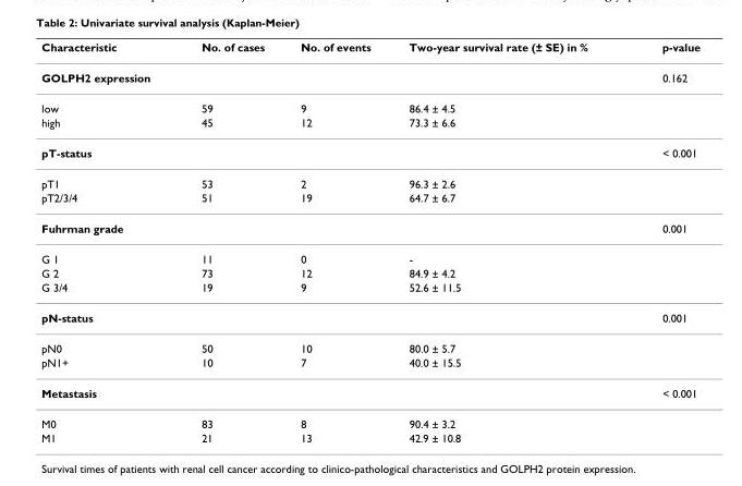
<table><thead><tr><td>Characteristic</td><td>No. of cases</td><td>No. of events</td><td>Two-year survival rate (± SE) in %</td><td>p-value</td></tr></thead><tbody><tr><td>GOLPH2 expression</td><td></td><td></td><td></td><td>0.162</td></tr><tr><td>low</td><td>59</td><td>9</td><td>86.4 ± 4.5</td><td></td></tr><tr><td>high</td><td>45</td><td>12</td><td>73.3 ± 6.6</td><td></td></tr><tr><td>pT-status</td><td></td><td></td><td></td><td>&lt; 0.001</td></tr><tr><td>pT1</td><td>53</td><td>2</td><td>96.3 ± 2.6</td><td></td></tr><tr><td>pT2/3/4</td><td>51</td><td>19</td><td>64.7 ± 6.7</td><td></td></tr><tr><td>Fuhrman grade</td><td></td><td></td><td></td><td>0.001</td></tr><tr><td>G 1</td><td>11</td><td>0</td><td>-</td><td></td></tr><tr><td>G 2</td><td>73</td><td>12</td><td>84.9 ± 4.2</td><td></td></tr><tr><td>G 3/4</td><td>19</td><td>9</td><td>52.6 ± 11.5</td><td></td></tr><tr><td>pN-status</td><td></td><td></td><td></td><td>0.001</td></tr><tr><td>pN0</td><td>50</td><td>10</td><td>80.0 ± 5.7</td><td></td></tr><tr><td>pN1+</td><td>10</td><td>7</td><td>40.0 ± 15.5</td><td></td></tr><tr><td>Metastasis</td><td></td><td></td><td></td><td>&lt; 0.001</td></tr><tr><td>M0</td><td>83</td><td>8</td><td>90.4 ± 3.2</td><td></td></tr><tr><td>M1</td><td>21</td><td>13</td><td>42.9 ± 10.8</td><td></td></tr></tbody></table>